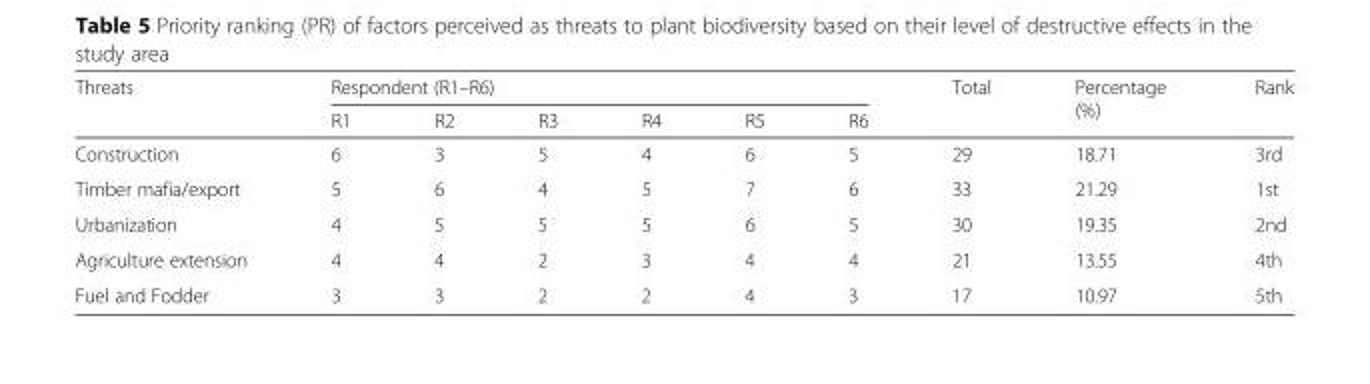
<table><thead><tr><td rowspan="2">Threats</td><td colspan="6">Respondent (R1–R6)</td><td rowspan="2">Total</td><td rowspan="2">Percentage (%)</td><td rowspan="2">Rank</td></tr><tr><td>R1</td><td>R2</td><td>R3</td><td>R4</td><td>R5</td><td>R6</td></tr></thead><tbody><tr><td>Construction</td><td>6</td><td>3</td><td>5</td><td>4</td><td>6</td><td>5</td><td>29</td><td>18.71</td><td>3rd</td></tr><tr><td>Timber mafia/export</td><td>5</td><td>6</td><td>4</td><td>5</td><td>7</td><td>6</td><td>33</td><td>21.29</td><td>1st</td></tr><tr><td>Urbanization</td><td>4</td><td>5</td><td>5</td><td>5</td><td>6</td><td>5</td><td>30</td><td>19.35</td><td>2nd</td></tr><tr><td>Agriculture extension</td><td>4</td><td>4</td><td>2</td><td>3</td><td>4</td><td>4</td><td>21</td><td>13.55</td><td>4th</td></tr><tr><td>Fuel and Fodder</td><td>3</td><td>3</td><td>2</td><td>2</td><td>4</td><td>3</td><td>17</td><td>10.97</td><td>5th</td></tr></tbody></table>